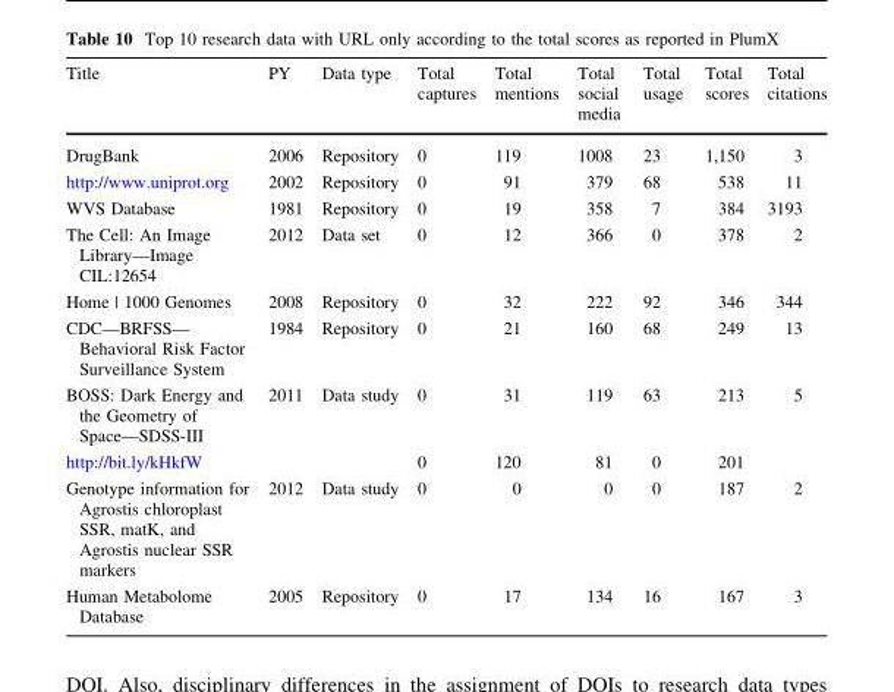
<table><thead><tr><td>Title</td><td>PY</td><td>Data type</td><td>Total captures</td><td>Total mentions</td><td>Total social media</td><td>Total usage</td><td>Total scores</td><td>Total citations</td></tr></thead><tbody><tr><td>DrugBank</td><td>2006</td><td>Repository</td><td>0</td><td>119</td><td>1008</td><td>23</td><td>1,150</td><td>3</td></tr><tr><td>http://www.uniprot.org</td><td>2002</td><td>Repository</td><td>0</td><td>91</td><td>379</td><td>68</td><td>538</td><td>11</td></tr><tr><td>WVS Database</td><td>1981</td><td>Repository</td><td>0</td><td>19</td><td>358</td><td>7</td><td>384</td><td>3193</td></tr><tr><td>The Cell: An Image Library—Image CIL:12654</td><td>2012</td><td>Data set</td><td>0</td><td>12</td><td>366</td><td>0</td><td>378</td><td>2</td></tr><tr><td>Home | 1000 Genomes</td><td>2008</td><td>Repository</td><td>0</td><td>32</td><td>222</td><td>92</td><td>346</td><td>344</td></tr><tr><td>CDC—BRFSS— Behavioral Risk Factor Surveillance System</td><td>1984</td><td>Repository</td><td>0</td><td>21</td><td>160</td><td>68</td><td>249</td><td>13</td></tr><tr><td>BOSS: Dark Energy and the Geometry of Space—SDSS-III</td><td>2011</td><td>Data study</td><td>0</td><td>31</td><td>119</td><td>63</td><td>213</td><td>5</td></tr><tr><td>http://bit.ly/kHkfW</td><td></td><td></td><td>0</td><td>120</td><td>81</td><td>0</td><td>201</td><td></td></tr><tr><td>Genotype information for Agrostis chloroplast SSR, matK, and Agrostis nuclear SSR markers</td><td>2012</td><td>Data study</td><td>0</td><td>0</td><td>0</td><td>0</td><td>187</td><td>2</td></tr><tr><td>Human Metabolome Database</td><td>2005</td><td>Repository</td><td>0</td><td>17</td><td>134</td><td>16</td><td>167</td><td>3</td></tr></tbody></table>